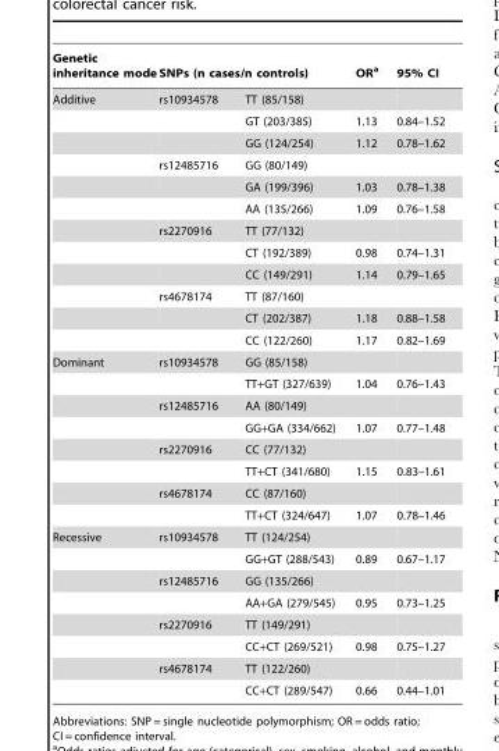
<table><thead><tr><td rowspan="2">Genetic inheritance mode Additive</td><td colspan="2">SNPs (n cases/n controls)</td><td rowspan="2">OR<sup>a</sup></td><td rowspan="2">95% CI</td></tr><tr><td>rs10934578</td><td>TT (85/158)</td></tr></thead><tbody><tr><td></td><td></td><td>GT (203/385)</td><td>1.13</td><td>0.84–1.52</td></tr><tr><td></td><td></td><td>GG (124/254)</td><td>1.12</td><td>0.78–1.62</td></tr><tr><td></td><td>rs12485716</td><td>GG (80/149)</td><td></td><td></td></tr><tr><td></td><td></td><td>GA (199/396)</td><td>1.03</td><td>0.78–1.38</td></tr><tr><td></td><td></td><td>AA (135/266)</td><td>1.09</td><td>0.76–1.58</td></tr><tr><td></td><td>rs2270916</td><td>TT (77/132)</td><td></td><td></td></tr><tr><td></td><td></td><td>CT (192/389)</td><td>0.98</td><td>0.74–1.31</td></tr><tr><td></td><td></td><td>CC (149/291)</td><td>1.14</td><td>0.79–1.65</td></tr><tr><td></td><td>rs4678174</td><td>TT (87/160)</td><td></td><td></td></tr><tr><td></td><td></td><td>CT (202/387)</td><td>1.18</td><td>0.88–1.58</td></tr><tr><td></td><td></td><td>CC (122/260)</td><td>1.17</td><td>0.82–1.69</td></tr><tr><td rowspan="8">Dominant</td><td>rs10934578</td><td>GG (85/158)</td><td></td><td></td></tr><tr><td></td><td>TT+GT (327/639)</td><td>1.04</td><td>0.76–1.43</td></tr><tr><td>rs12485716</td><td>AA (80/149)</td><td></td><td></td></tr><tr><td></td><td>GG+GA (334/662)</td><td>1.07</td><td>0.77–1.48</td></tr><tr><td>rs2270916</td><td>CC (77/132)</td><td></td><td></td></tr><tr><td></td><td>TT+CT (341/680)</td><td>1.15</td><td>0.83–1.61</td></tr><tr><td>rs4678174</td><td>CC (87/160)</td><td></td><td></td></tr><tr><td></td><td>TT+CT (324/647)</td><td>1.07</td><td>0.78–1.46</td></tr><tr><td rowspan="8">Recessive</td><td>rs10934578</td><td>TT (124/254)</td><td></td><td></td></tr><tr><td></td><td>GG+GT (288/543)</td><td>0.89</td><td>0.67–1.17</td></tr><tr><td>rs12485716</td><td>GG (135/266)</td><td></td><td></td></tr><tr><td></td><td>AA+GA (279/545)</td><td>0.95</td><td>0.73–1.25</td></tr><tr><td>rs2270916</td><td>TT (149/291)</td><td></td><td></td></tr><tr><td></td><td>CC+CT (269/521)</td><td>0.98</td><td>0.75–1.27</td></tr><tr><td>rs4678174</td><td>TT (122/260)</td><td></td><td></td></tr><tr><td></td><td>CC+CT (289/547)</td><td>0.66</td><td>0.44–1.01</td></tr></tbody></table>